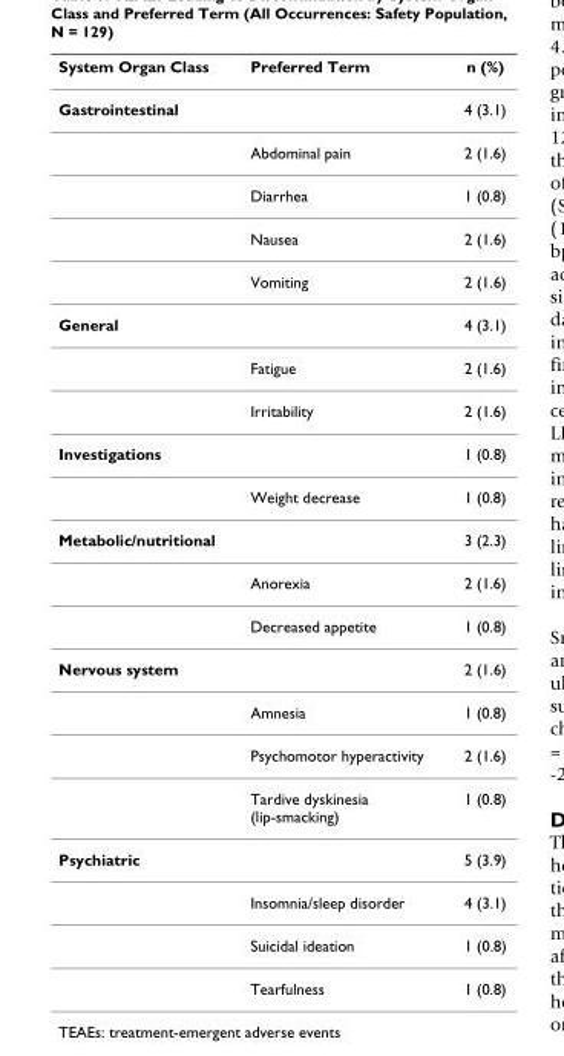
<table><thead><tr><td>System Organ Class</td><td>Preferred Term</td><td>n (%)</td></tr></thead><tbody><tr><td rowspan="5">Gastrointestinal</td><td></td><td>4 (3.1)</td></tr><tr><td>Abdominal pain</td><td>2 (1.6)</td></tr><tr><td>Diarrhea</td><td>1 (0.8)</td></tr><tr><td>Nausea</td><td>2 (1.6)</td></tr><tr><td>Vomiting</td><td>2 (1.6)</td></tr><tr><td rowspan="3">General</td><td></td><td>4 (3.1)</td></tr><tr><td>Fatigue</td><td>2 (1.6)</td></tr><tr><td>Irritability</td><td>2 (1.6)</td></tr><tr><td rowspan="2">Investigations</td><td></td><td>1 (0.8)</td></tr><tr><td>Weight decrease</td><td>1 (0.8)</td></tr><tr><td rowspan="3">Metabolic/nutritional</td><td></td><td>3 (2.3)</td></tr><tr><td>Anorexia</td><td>2 (1.6)</td></tr><tr><td>Decreased appetite</td><td>1 (0.8)</td></tr><tr><td rowspan="4">Nervous system</td><td></td><td>2 (1.6)</td></tr><tr><td>Amnesia</td><td>1 (0.8)</td></tr><tr><td>Psychomotor hyperactivity</td><td>2 (1.6)</td></tr><tr><td>Tardive dyskinesia (lip-smacking)</td><td>1 (0.8)</td></tr><tr><td rowspan="4">Psychiatric</td><td></td><td>5 (3.9)</td></tr><tr><td>Insomnia/sleep disorder</td><td>4 (3.1)</td></tr><tr><td>Suicidal ideation</td><td>1 (0.8)</td></tr><tr><td>Tearfulness</td><td>1 (0.8)</td></tr></tbody></table>